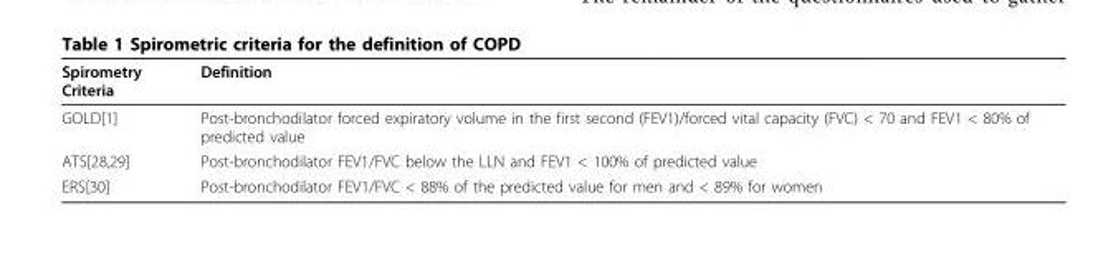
<table><thead><tr><td>Spirometry Criteria</td><td>Definition</td></tr></thead><tbody><tr><td>GOLD[1]</td><td>Post-bronchodilator forced expiratory volume in the first second (FEV1)/forced vital capacity (FVC) &lt; 70 and FEV1 &lt; 80% of predicted value</td></tr><tr><td>ATS[28,29]</td><td>Post-bronchodilator FEV1/FVC below the LLN and FEV1 &lt; 100% of predicted value</td></tr><tr><td>ERS[30]</td><td>Post-bronchodilator FEV1/FVC &lt; 88% of the predicted value for men and &lt; 89% for women</td></tr></tbody></table>